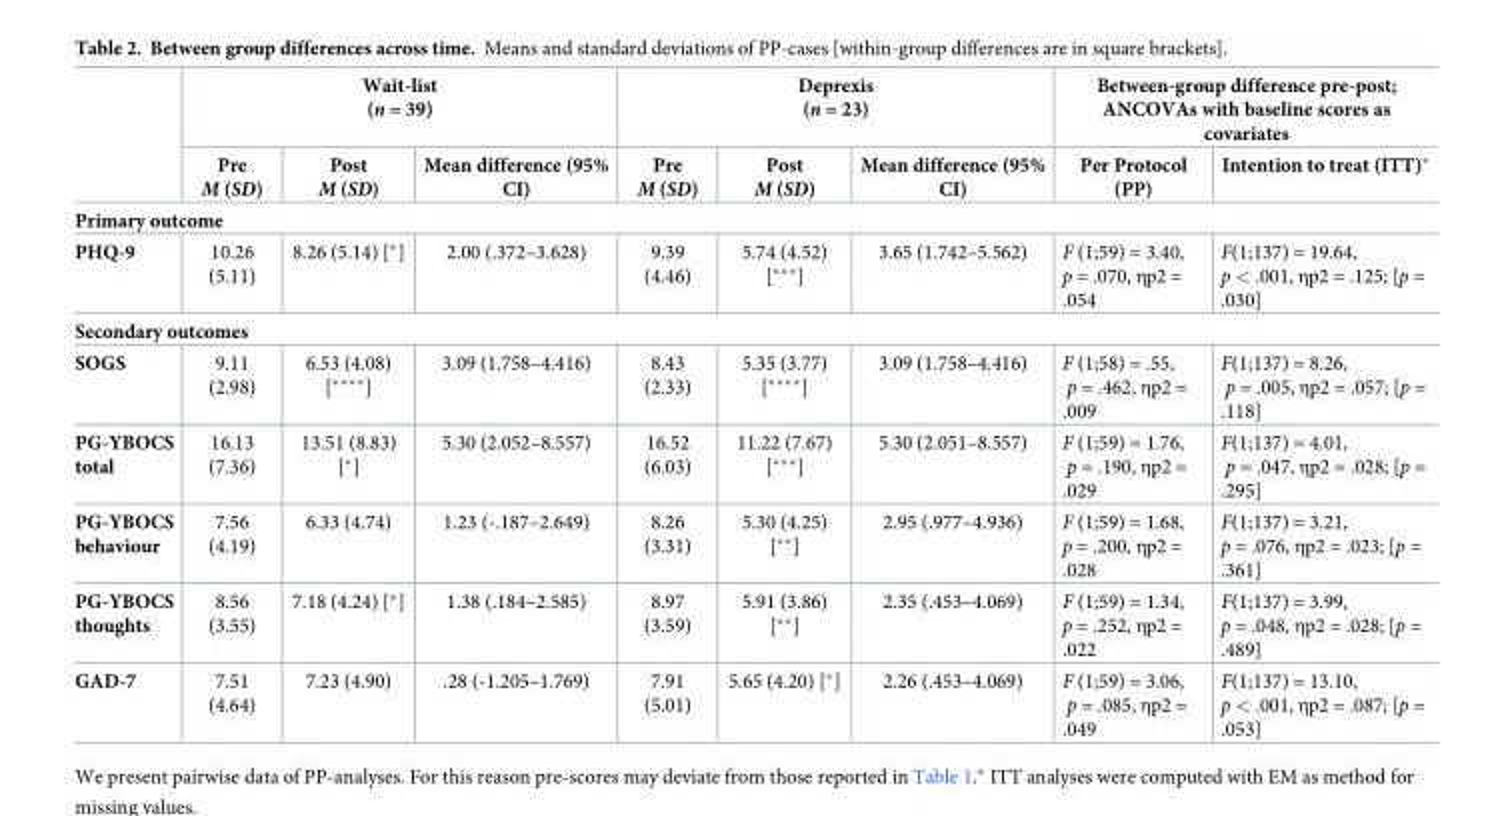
<table><thead><tr><td rowspan="2"></td><td colspan="3">Wait-list (n = 39)</td><td colspan="3">Deprexis (n = 23)</td><td colspan="2">Between-group difference pre-post; ANCOVAs with baseline scores as covariates</td></tr><tr><td>Pre M (SD)</td><td>Post M (SD)</td><td>Mean difference (95% CI)</td><td>Pre M (SD)</td><td>Post M (SD)</td><td>Mean difference (95% CI)</td><td>Per Protocol (PP)</td><td>Intention to treat (ITT)*</td></tr></thead><tbody><tr><td colspan="9">Primary outcome</td></tr><tr><td>PHQ-9</td><td>10.26 (5.11)</td><td>8.26 (5.14) [*]</td><td>2.00 (.372–3.628)</td><td>9.39 (4.46)</td><td>5.74 (4.52) [***]</td><td>3.65 (1.742–5.562)</td><td>F (1;59) = 3.40, p = .070, ηp2 = .054</td><td>F(1;137) = 19.64, p &lt; .001, ηp2 = .125; [p = .030]</td></tr><tr><td colspan="9">Secondary outcomes</td></tr><tr><td>SOGS</td><td>9.11 (2.98)</td><td>6.53 (4.08) [****]</td><td>3.09 (1.758–4.416)</td><td>8.43 (2.33)</td><td>5.35 (3.77) [****]</td><td>3.09 (1.758–4.416)</td><td>F (1;58) = .55, p = .462, ηp2 = .009</td><td>F(1;137) = 8.26, p = .005, ηp2 = .057; [p = .118]</td></tr><tr><td>PG-YBOCS total</td><td>16.13 (7.36)</td><td>13.51 (8.83) [*]</td><td>5.30 (2.052–8.557)</td><td>16.52 (6.03)</td><td>11.22 (7.67) [***]</td><td>5.30 (2.051–8.557)</td><td>F (1;59) = 1.76, p = .190, ηp2 = .029</td><td>F(1;137) = 4.01, p = .047, ηp2 = .028; [p = .295]</td></tr><tr><td>PG-YBOCS behaviour</td><td>7.56 (4.19)</td><td>6.33 (4.74)</td><td>1.23 (-.187–2.649)</td><td>8.26 (3.31)</td><td>5.30 (4.25) [**]</td><td>2.95 (.977–4.936)</td><td>F (1;59) = 1.68, p = .200, ηp2 = .028</td><td>F(1;137) = 3.21, p = .076, ηp2 = .023; [p = .361]</td></tr><tr><td>PG-YBOCS thoughts</td><td>8.56 (3.55)</td><td>7.18 (4.24) [*]</td><td>1.38 (.184–2.585)</td><td>8.97 (3.59)</td><td>5.91 (3.86) [**]</td><td>2.35 (.453–4.069)</td><td>F (1;59) = 1.34, p = .252, ηp2 = .022</td><td>F(1;137) = 3.99, p = .048, ηp2 = .028; [p = .489]</td></tr><tr><td>GAD-7</td><td>7.51 (4.64)</td><td>7.23 (4.90)</td><td>.28 (-1.205–1.769)</td><td>7.91 (5.01)</td><td>5.65 (4.20) [*]</td><td>2.26 (.453–4.069)</td><td>F (1;59) = 3.06, p = .085, ηp2 = .049</td><td>F(1;137) = 13.10, p &lt; .001, ηp2 = .087; [p = .053]</td></tr></tbody></table>